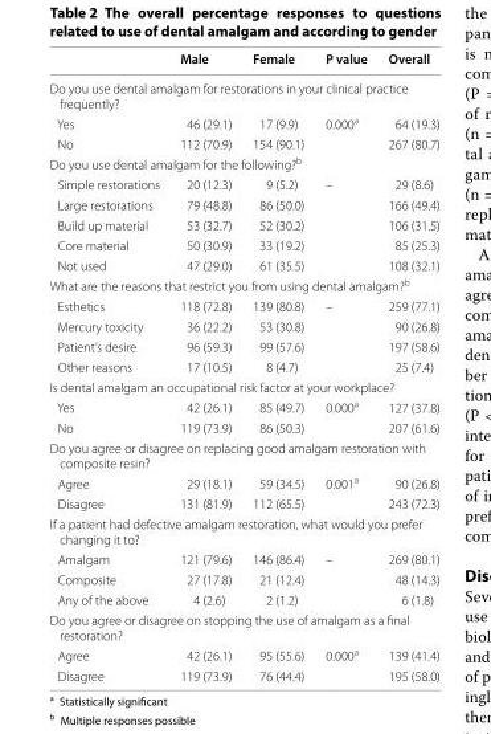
<table><thead><tr><td></td><td>Male</td><td>Female</td><td>P value</td><td>Overall</td></tr></thead><tbody><tr><td colspan="5">Do you use dental amalgam for restorations in your clinical practice frequently?</td></tr><tr><td>Yes</td><td>46 (29.1)</td><td>17 (9.9)</td><td rowspan="2">0.000<sup>a</sup></td><td>64 (19.3)</td></tr><tr><td>No</td><td>112 (70.9)</td><td>154 (90.1)</td><td>267 (80.7)</td></tr><tr><td colspan="5">Do you use dental amalgam for the following?<sup>b</sup></td></tr><tr><td>Simple restorations</td><td>20 (12.3)</td><td>9 (5.2)</td><td rowspan="5">–</td><td>29 (8.6)</td></tr><tr><td>Large restorations</td><td>79 (48.8)</td><td>86 (50.0)</td><td>166 (49.4)</td></tr><tr><td>Build up material</td><td>53 (32.7)</td><td>52 (30.2)</td><td>106 (31.5)</td></tr><tr><td>Core material</td><td>50 (30.9)</td><td>33 (19.2)</td><td>85 (25.3)</td></tr><tr><td>Not used</td><td>47 (29.0)</td><td>61 (35.5)</td><td>108 (32.1)</td></tr><tr><td colspan="5">What are the reasons that restrict you from using dental amalgam?<sup>b</sup></td></tr><tr><td>Esthetics</td><td>118 (72.8)</td><td>139 (80.8)</td><td rowspan="4">–</td><td>259 (77.1)</td></tr><tr><td>Mercury toxicity</td><td>36 (22.2)</td><td>53 (30.8)</td><td>90 (26.8)</td></tr><tr><td>Patient’s desire</td><td>96 (59.3)</td><td>99 (57.6)</td><td>197 (58.6)</td></tr><tr><td>Other reasons</td><td>17 (10.5)</td><td>8 (4.7)</td><td>25 (7.4)</td></tr><tr><td colspan="5">Is dental amalgam an occupational risk factor at your workplace?</td></tr><tr><td>Yes</td><td>42 (26.1)</td><td>85 (49.7)</td><td rowspan="2">0.000<sup>a</sup></td><td>127 (37.8)</td></tr><tr><td>No</td><td>119 (73.9)</td><td>86 (50.3)</td><td>207 (61.6)</td></tr><tr><td colspan="5">Do you agree or disagree on replacing good amalgam restoration with composite resin?</td></tr><tr><td>Agree</td><td>29 (18.1)</td><td>59 (34.5)</td><td rowspan="2">0.001<sup>a</sup></td><td>90 (26.8)</td></tr><tr><td>Disagree</td><td>131 (81.9)</td><td>112 (65.5)</td><td>243 (72.3)</td></tr><tr><td colspan="5">If a patient had defective amalgam restoration, what would you prefer changing it to?</td></tr><tr><td>Amalgam</td><td>121 (79.6)</td><td>146 (86.4)</td><td rowspan="3">–</td><td>269 (80.1)</td></tr><tr><td>Composite</td><td>27 (17.8)</td><td>21 (12.4)</td><td>48 (14.3)</td></tr><tr><td>Any of the above</td><td>4 (2.6)</td><td>2 (1.2)</td><td>6 (1.8)</td></tr><tr><td colspan="5">Do you agree or disagree on stopping the use of amalgam as a final restoration?</td></tr><tr><td>Agree</td><td>42 (26.1)</td><td>95 (55.6)</td><td>0.000<sup>a</sup></td><td>139 (41.4)</td></tr><tr><td>Disagree</td><td>119 (73.9)</td><td>76 (44.4)</td><td></td><td>195 (58.0)</td></tr></tbody></table>